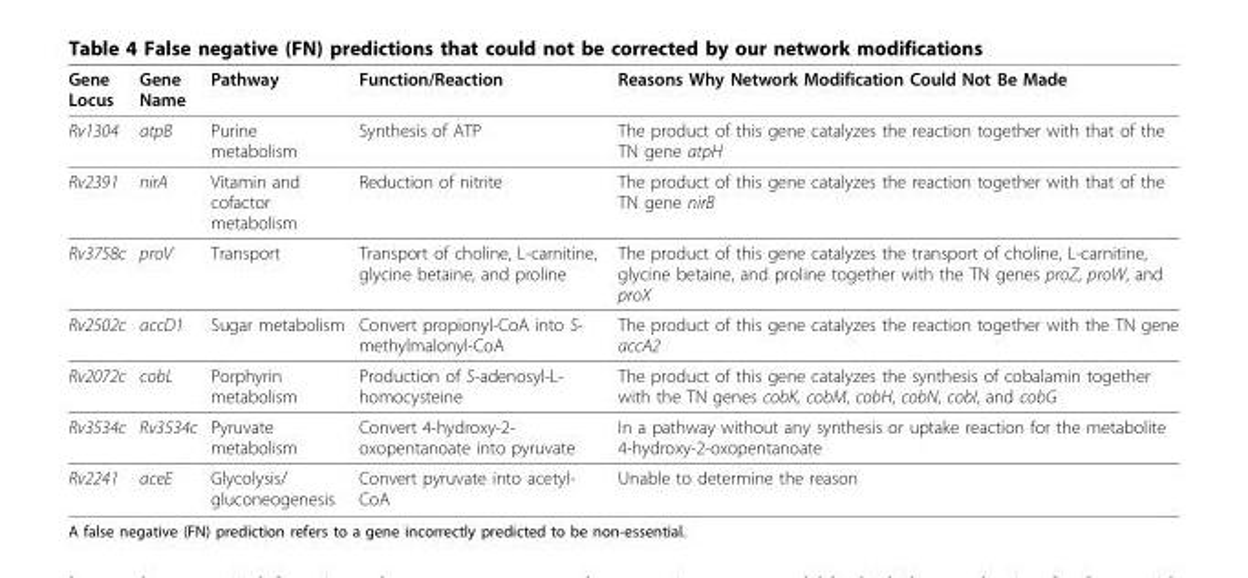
<table><thead><tr><td>Gene Locus</td><td>Gene Name</td><td>Pathway</td><td>Function/Reaction</td><td>Reasons Why Network Modification Could Not Be Made</td></tr></thead><tbody><tr><td>Rv1304</td><td>atpB</td><td>Purine metabolism</td><td>Synthesis of ATP</td><td>The product of this gene catalyzes the reaction together with that of the TN gene atpH</td></tr><tr><td>Rv2391</td><td>nirA</td><td>Vitamin and cofactor metabolism</td><td>Reduction of nitrite</td><td>The product of this gene catalyzes the reaction together with that of the TN gene nirB</td></tr><tr><td>Rv3758c</td><td>proV</td><td>Transport</td><td>Transport of choline, L-carnitine, glycine betaine, and proline</td><td>The product of this gene catalyzes the transport of choline, L-carnitine, glycine betaine, and proline together with the TN genes proZ, proW, and proX</td></tr><tr><td>Rv2502c</td><td>accD1</td><td>Sugar metabolism</td><td>Convert propionyl-CoA into S- methylmalonyl-CoA</td><td>The product of this gene catalyzes the reaction together with the TN gene accA2</td></tr><tr><td>Rv2072c</td><td>cobL</td><td>Porphyrin metabolism</td><td>Production of S-adenosyl-L- homocysteine</td><td>The product of this gene catalyzes the synthesis of cobalamin together with the TN genes cobK, cobM, cobH, cobN, cobI, and cobG</td></tr><tr><td>Rv3534c</td><td>Rv3534c</td><td>Pyruvate metabolism</td><td>Convert 4-hydroxy-2- oxopentanoate into pyruvate</td><td>In a pathway without any synthesis or uptake reaction for the metabolite 4-hydroxy-2-oxopentanoate</td></tr><tr><td>Rv2241</td><td>aceE</td><td>Glycolysis/ gluconeogenesis</td><td>Convert pyruvate into acetyl- CoA</td><td>Unable to determine the reason</td></tr></tbody></table>